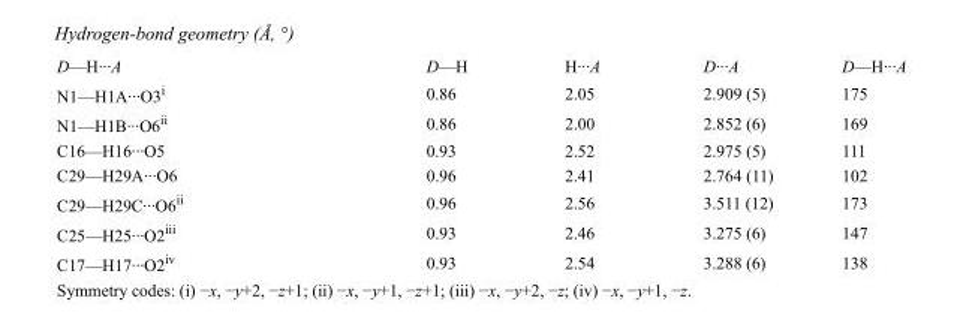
<table><tbody><tr><td>D—H···A</td><td>D—H</td><td>H···A</td><td>D···A</td><td>D—H···A</td></tr><tr><td>N1—H1A···O3<sup>i</sup></td><td>0.86</td><td>2.05</td><td>2.909 (5)</td><td>175</td></tr><tr><td>N1—H1B···O6<sup>ii</sup></td><td>0.86</td><td>2.00</td><td>2.852 (6)</td><td>169</td></tr><tr><td>C16—H16···O5</td><td>0.93</td><td>2.52</td><td>2.975 (5)</td><td>111</td></tr><tr><td>C29—H29A···O6</td><td>0.96</td><td>2.41</td><td>2.764 (11)</td><td>102</td></tr><tr><td>C29—H29C···O6<sup>ii</sup></td><td>0.96</td><td>2.56</td><td>3.511 (12)</td><td>173</td></tr><tr><td>C25—H25···O2<sup>iii</sup></td><td>0.93</td><td>2.46</td><td>3.275 (6)</td><td>147</td></tr><tr><td>C17—H17···O2<sup>iv</sup></td><td>0.93</td><td>2.54</td><td>3.288 (6)</td><td>138</td></tr></tbody></table>